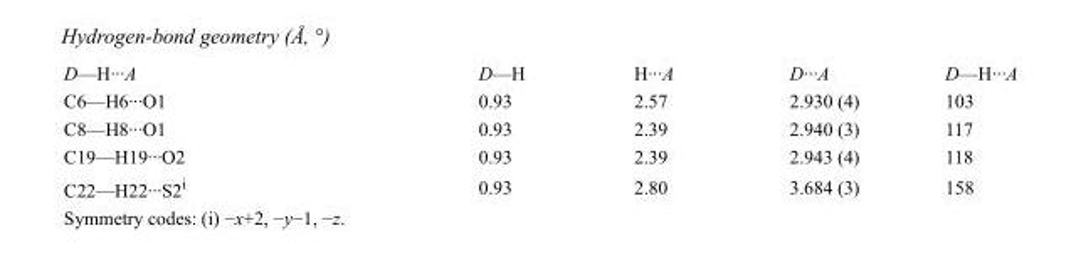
<table><tbody><tr><td>D—H···A</td><td>D—H</td><td>H···A</td><td>D···A</td><td>D—H···A</td></tr><tr><td>C6—H6···O1</td><td>0.93</td><td>2.57</td><td>2.930 (4)</td><td>103</td></tr><tr><td>C8—H8···O1</td><td>0.93</td><td>2.39</td><td>2.940 (3)</td><td>117</td></tr><tr><td>C19—H19···O2</td><td>0.93</td><td>2.39</td><td>2.943 (4)</td><td>118</td></tr><tr><td>C22—H22···S2<sup>i</sup></td><td>0.93</td><td>2.80</td><td>3.684 (3)</td><td>158</td></tr></tbody></table>